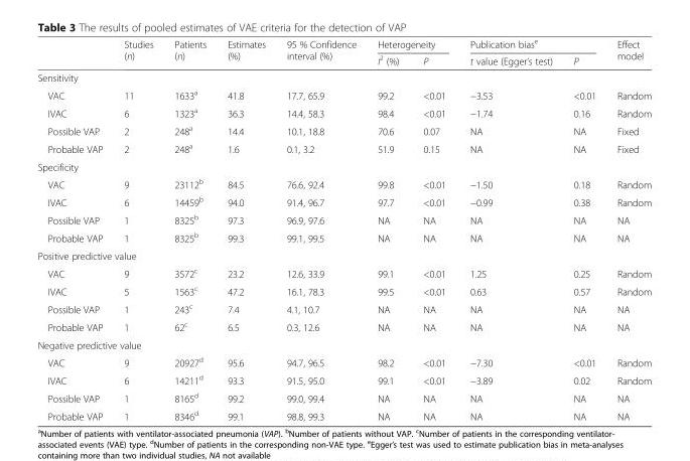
<table><thead><tr><td rowspan="2"></td><td rowspan="2">Studies (n)</td><td rowspan="2">Patients (n)</td><td rowspan="2">Estimates (%)</td><td rowspan="2">95 % Confidence interval (%)</td><td colspan="2">Heterogeneity</td><td colspan="2">Publication bias<sup>e</sup></td><td rowspan="2">Effect model</td></tr><tr><td>I<sup>2</sup> (%)</td><td>P</td><td>t value (Egger’s test)</td><td>P</td></tr></thead><tbody><tr><td colspan="10">Sensitivity</td></tr><tr><td>VAC</td><td>11</td><td>1633<sup>a</sup></td><td>41.8</td><td>17.7, 65.9</td><td>99.2</td><td>&lt;0.01</td><td>−3.53</td><td>&lt;0.01</td><td>Random</td></tr><tr><td>IVAC</td><td>6</td><td>1323<sup>a</sup></td><td>36.3</td><td>14.4, 58.3</td><td>98.4</td><td>&lt;0.01</td><td>−1.74</td><td>0.16</td><td>Random</td></tr><tr><td>Possible VAP</td><td>2</td><td>248<sup>a</sup></td><td>14.4</td><td>10.1, 18.8</td><td>70.6</td><td>0.07</td><td>NA</td><td>NA</td><td>Fixed</td></tr><tr><td>Probable VAP</td><td>2</td><td>248<sup>a</sup></td><td>1.6</td><td>0.1, 3.2</td><td>51.9</td><td>0.15</td><td>NA</td><td>NA</td><td>Fixed</td></tr><tr><td colspan="10">Specificity</td></tr><tr><td>VAC</td><td>9</td><td>23112<sup>b</sup></td><td>84.5</td><td>76.6, 92.4</td><td>99.8</td><td>&lt;0.01</td><td>−1.50</td><td>0.18</td><td>Random</td></tr><tr><td>IVAC</td><td>6</td><td>14459<sup>b</sup></td><td>94.0</td><td>91.4, 96.7</td><td>97.7</td><td>&lt;0.01</td><td>−0.99</td><td>0.38</td><td>Random</td></tr><tr><td>Possible VAP</td><td>1</td><td>8325<sup>b</sup></td><td>97.3</td><td>96.9, 97.6</td><td>NA</td><td>NA</td><td>NA</td><td>NA</td><td>NA</td></tr><tr><td>Probable VAP</td><td>1</td><td>8325<sup>b</sup></td><td>99.3</td><td>99.1, 99.5</td><td>NA</td><td>NA</td><td>NA</td><td>NA</td><td>NA</td></tr><tr><td colspan="10">Positive predictive value</td></tr><tr><td>VAC</td><td>9</td><td>3572<sup>c</sup></td><td>23.2</td><td>12.6, 33.9</td><td>99.1</td><td>&lt;0.01</td><td>1.25</td><td>0.25</td><td>Random</td></tr><tr><td>IVAC</td><td>5</td><td>1563<sup>c</sup></td><td>47.2</td><td>16.1, 78.3</td><td>99.5</td><td>&lt;0.01</td><td>0.63</td><td>0.57</td><td>Random</td></tr><tr><td>Possible VAP</td><td>1</td><td>243<sup>c</sup></td><td>7.4</td><td>4.1, 10.7</td><td>NA</td><td>NA</td><td>NA</td><td>NA</td><td>NA</td></tr><tr><td>Probable VAP</td><td>1</td><td>62<sup>c</sup></td><td>6.5</td><td>0.3, 12.6</td><td>NA</td><td>NA</td><td>NA</td><td>NA</td><td>NA</td></tr><tr><td colspan="10">Negative predictive value</td></tr><tr><td>VAC</td><td>9</td><td>20927<sup>d</sup></td><td>95.6</td><td>94.7, 96.5</td><td>98.2</td><td>&lt;0.01</td><td>−7.30</td><td>&lt;0.01</td><td>Random</td></tr><tr><td>IVAC</td><td>6</td><td>14211<sup>d</sup></td><td>93.3</td><td>91.5, 95.0</td><td>99.1</td><td>&lt;0.01</td><td>−3.89</td><td>0.02</td><td>Random</td></tr><tr><td>Possible VAP</td><td>1</td><td>8165<sup>d</sup></td><td>99.2</td><td>99.0, 99.4</td><td>NA</td><td>NA</td><td>NA</td><td>NA</td><td>NA</td></tr><tr><td>Probable VAP</td><td>1</td><td>8346<sup>d</sup></td><td>99.1</td><td>98.8, 99.3</td><td>NA</td><td>NA</td><td>NA</td><td>NA</td><td>NA</td></tr></tbody></table>